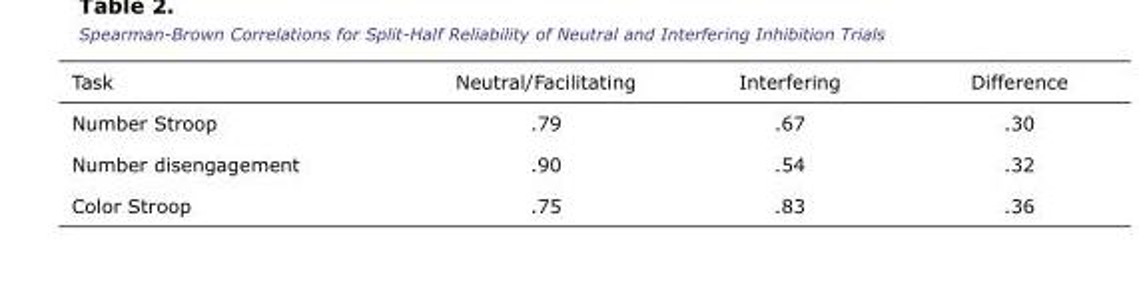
<table><thead><tr><td>Task</td><td>Neutral/Facilitating</td><td>Interfering</td><td>Difference</td></tr></thead><tbody><tr><td>Number Stroop</td><td>.79</td><td>.67</td><td>.30</td></tr><tr><td>Number disengagement</td><td>.90</td><td>.54</td><td>.32</td></tr><tr><td>Color Stroop</td><td>.75</td><td>.83</td><td>.36</td></tr></tbody></table>